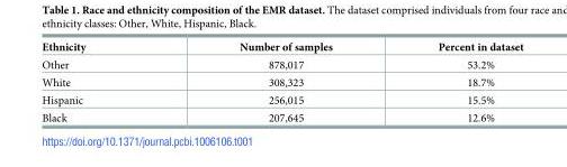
<table><thead><tr><td>Ethnicity</td><td>Number of samples</td><td>Percent in dataset</td></tr></thead><tbody><tr><td>Other</td><td>878,017</td><td>53.2%</td></tr><tr><td>White</td><td>308,323</td><td>18.7%</td></tr><tr><td>Hispanic</td><td>256,015</td><td>15.5%</td></tr><tr><td>Black</td><td>207,645</td><td>12.6%</td></tr></tbody></table>